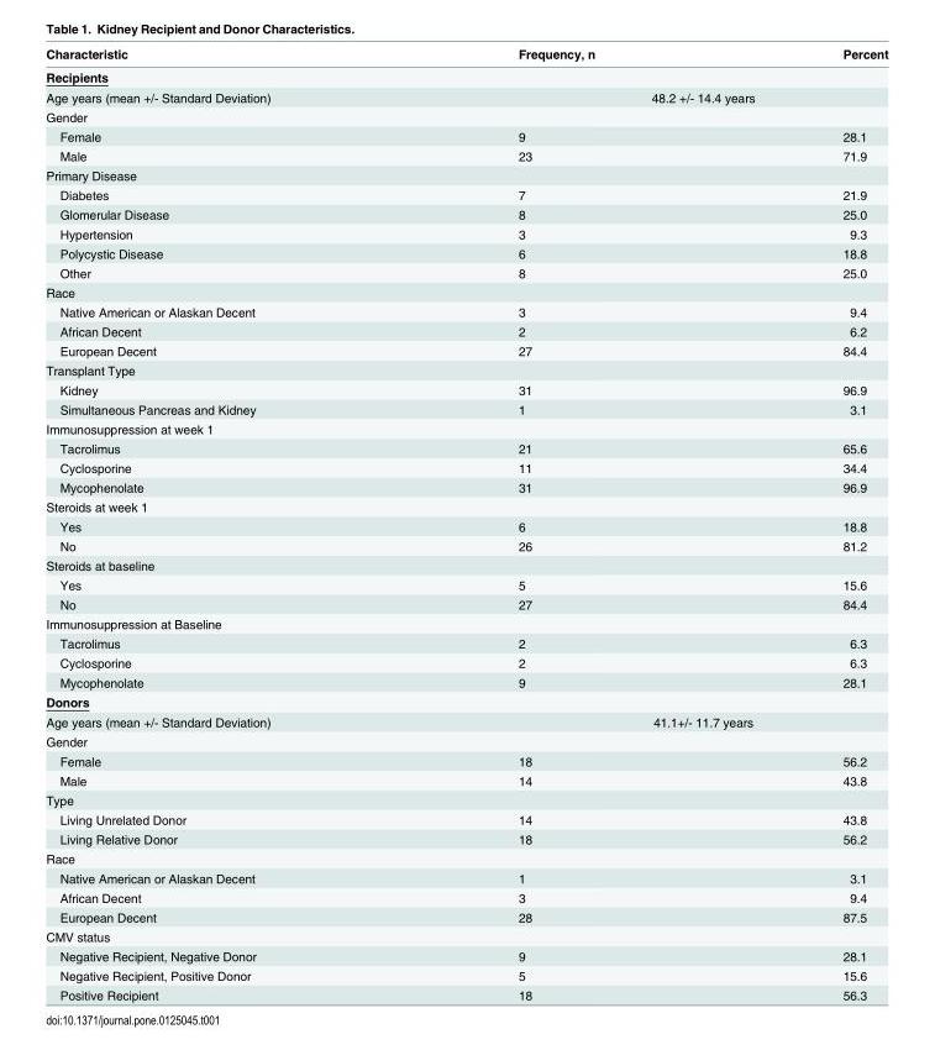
<table><thead><tr><td>Characteristic</td><td>Frequency, n</td><td>Percent</td></tr></thead><tbody><tr><td colspan="3">Recipients</td></tr><tr><td>Age years (mean +/- Standard Deviation)</td><td colspan="2">48.2 +/- 14.4 years</td></tr><tr><td colspan="3">Gender</td></tr><tr><td>Female</td><td>9</td><td>28.1</td></tr><tr><td>Male</td><td>23</td><td>71.9</td></tr><tr><td colspan="3">Primary Disease</td></tr><tr><td>Diabetes</td><td>7</td><td>21.9</td></tr><tr><td>Glomerular Disease</td><td>8</td><td>25.0</td></tr><tr><td>Hypertension</td><td>3</td><td>9.3</td></tr><tr><td>Polycystic Disease</td><td>6</td><td>18.8</td></tr><tr><td>Other</td><td>8</td><td>25.0</td></tr><tr><td colspan="3">Race</td></tr><tr><td>Native American or Alaskan Decent</td><td>3</td><td>9.4</td></tr><tr><td>African Decent</td><td>2</td><td>6.2</td></tr><tr><td>European Decent</td><td>27</td><td>84.4</td></tr><tr><td colspan="3">Transplant Type</td></tr><tr><td>Kidney</td><td>31</td><td>96.9</td></tr><tr><td>Simultaneous Pancreas and Kidney</td><td>1</td><td>3.1</td></tr><tr><td colspan="3">Immunosuppression at week 1</td></tr><tr><td>Tacrolimus</td><td>21</td><td>65.6</td></tr><tr><td>Cyclosporine</td><td>11</td><td>34.4</td></tr><tr><td>Mycophenolate</td><td>31</td><td>96.9</td></tr><tr><td colspan="3">Steroids at week 1</td></tr><tr><td>Yes</td><td>6</td><td>18.8</td></tr><tr><td>No</td><td>26</td><td>81.2</td></tr><tr><td colspan="3">Steroids at baseline</td></tr><tr><td>Yes</td><td>5</td><td>15.6</td></tr><tr><td>No</td><td>27</td><td>84.4</td></tr><tr><td colspan="3">Immunosuppression at Baseline</td></tr><tr><td>Tacrolimus</td><td>2</td><td>6.3</td></tr><tr><td>Cyclosporine</td><td>2</td><td>6.3</td></tr><tr><td>Mycophenolate</td><td>9</td><td>28.1</td></tr><tr><td colspan="3">Donors</td></tr><tr><td>Age years (mean +/- Standard Deviation)</td><td colspan="2">41.1+/- 11.7 years</td></tr><tr><td colspan="3">Gender</td></tr><tr><td>Female</td><td>18</td><td>56.2</td></tr><tr><td>Male</td><td>14</td><td>43.8</td></tr><tr><td colspan="3">Type</td></tr><tr><td>Living Unrelated Donor</td><td>14</td><td>43.8</td></tr><tr><td>Living Relative Donor</td><td>18</td><td>56.2</td></tr><tr><td colspan="3">Race</td></tr><tr><td>Native American or Alaskan Decent</td><td>1</td><td>3.1</td></tr><tr><td>African Decent</td><td>3</td><td>9.4</td></tr><tr><td>European Decent</td><td>28</td><td>87.5</td></tr><tr><td colspan="3">CMV status</td></tr><tr><td>Negative Recipient, Negative Donor</td><td>9</td><td>28.1</td></tr><tr><td>Negative Recipient, Positive Donor</td><td>5</td><td>15.6</td></tr><tr><td>Positive Recipient</td><td>18</td><td>56.3</td></tr></tbody></table>